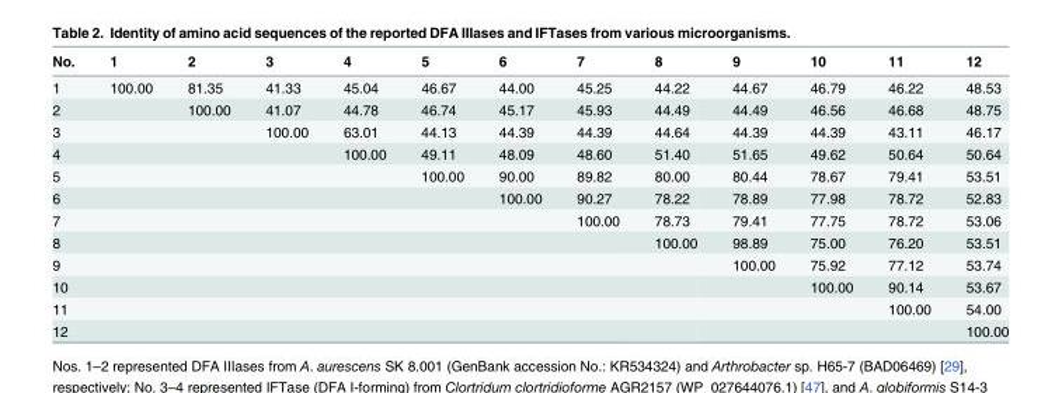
<table><thead><tr><td>No.</td><td>1</td><td>2</td><td>3</td><td>4</td><td>5</td><td>6</td><td>7</td><td>8</td><td>9</td><td>10</td><td>11</td><td>12</td></tr></thead><tbody><tr><td>1</td><td>100.00</td><td>81.35</td><td>41.33</td><td>45.04</td><td>46.67</td><td>44.00</td><td>45.25</td><td>44.22</td><td>44.67</td><td>46.79</td><td>46.22</td><td>48.53</td></tr><tr><td>2</td><td></td><td>100.00</td><td>41.07</td><td>44.78</td><td>46.74</td><td>45.17</td><td>45.93</td><td>44.49</td><td>44.49</td><td>46.56</td><td>46.68</td><td>48.75</td></tr><tr><td>3</td><td></td><td></td><td>100.00</td><td>63.01</td><td>44.13</td><td>44.39</td><td>44.39</td><td>44.64</td><td>44.39</td><td>44.39</td><td>43.11</td><td>46.17</td></tr><tr><td>4</td><td></td><td></td><td></td><td>100.00</td><td>49.11</td><td>48.09</td><td>48.60</td><td>51.40</td><td>51.65</td><td>49.62</td><td>50.64</td><td>50.64</td></tr><tr><td>5</td><td></td><td></td><td></td><td></td><td>100.00</td><td>90.00</td><td>89.82</td><td>80.00</td><td>80.44</td><td>78.67</td><td>79.41</td><td>53.51</td></tr><tr><td>6</td><td></td><td></td><td></td><td></td><td></td><td>100.00</td><td>90.27</td><td>78.22</td><td>78.89</td><td>77.98</td><td>78.72</td><td>52.83</td></tr><tr><td>7</td><td></td><td></td><td></td><td></td><td></td><td></td><td>100.00</td><td>78.73</td><td>79.41</td><td>77.75</td><td>78.72</td><td>53.06</td></tr><tr><td>8</td><td></td><td></td><td></td><td></td><td></td><td></td><td></td><td>100.00</td><td>98.89</td><td>75.00</td><td>76.20</td><td>53.51</td></tr><tr><td>9</td><td></td><td></td><td></td><td></td><td></td><td></td><td></td><td></td><td>100.00</td><td>75.92</td><td>77.12</td><td>53.74</td></tr><tr><td>10</td><td></td><td></td><td></td><td></td><td></td><td></td><td></td><td></td><td></td><td>100.00</td><td>90.14</td><td>53.67</td></tr><tr><td>11</td><td></td><td></td><td></td><td></td><td></td><td></td><td></td><td></td><td></td><td></td><td>100.00</td><td>54.00</td></tr><tr><td>12</td><td></td><td></td><td></td><td></td><td></td><td></td><td></td><td></td><td></td><td></td><td></td><td>100.00</td></tr></tbody></table>